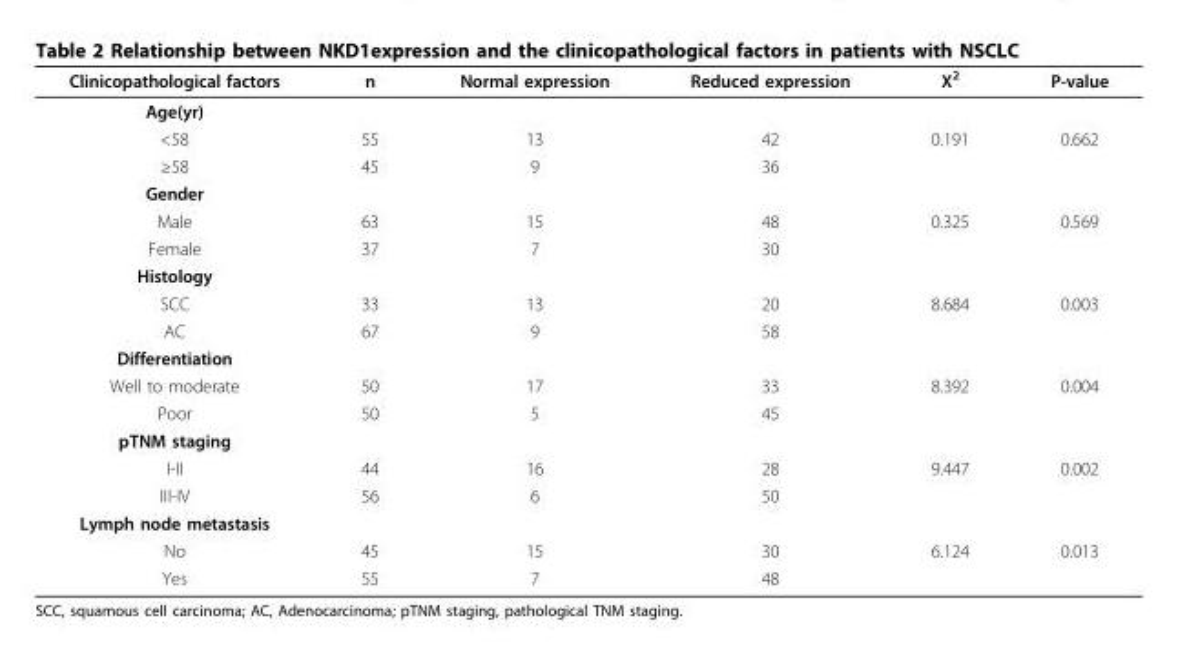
<table><thead><tr><td>Clinicopathological factors</td><td>n</td><td>Normal expression</td><td>Reduced expression</td><td>X<sup>2</sup></td><td>P-value</td></tr></thead><tbody><tr><td colspan="6">Age(yr)</td></tr><tr><td>&lt;58</td><td>55</td><td>13</td><td>42</td><td>0.191</td><td>0.662</td></tr><tr><td>≥58</td><td>45</td><td>9</td><td>36</td><td></td><td></td></tr><tr><td colspan="6">Gender</td></tr><tr><td>Male</td><td>63</td><td>15</td><td>48</td><td>0.325</td><td>0.569</td></tr><tr><td>Female</td><td>37</td><td>7</td><td>30</td><td></td><td></td></tr><tr><td colspan="6">Histology</td></tr><tr><td>SCC</td><td>33</td><td>13</td><td>20</td><td>8.684</td><td>0.003</td></tr><tr><td>AC</td><td>67</td><td>9</td><td>58</td><td></td><td></td></tr><tr><td colspan="6">Differentiation</td></tr><tr><td>Well to moderate</td><td>50</td><td>17</td><td>33</td><td>8.392</td><td>0.004</td></tr><tr><td>Poor</td><td>50</td><td>5</td><td>45</td><td></td><td></td></tr><tr><td colspan="6">pTNM staging</td></tr><tr><td>I-II</td><td>44</td><td>16</td><td>28</td><td>9.447</td><td>0.002</td></tr><tr><td>III-IV</td><td>56</td><td>6</td><td>50</td><td></td><td></td></tr><tr><td colspan="6">Lymph node metastasis</td></tr><tr><td>No</td><td>45</td><td>15</td><td>30</td><td>6.124</td><td>0.013</td></tr><tr><td>Yes</td><td>55</td><td>7</td><td>48</td><td></td><td></td></tr></tbody></table>